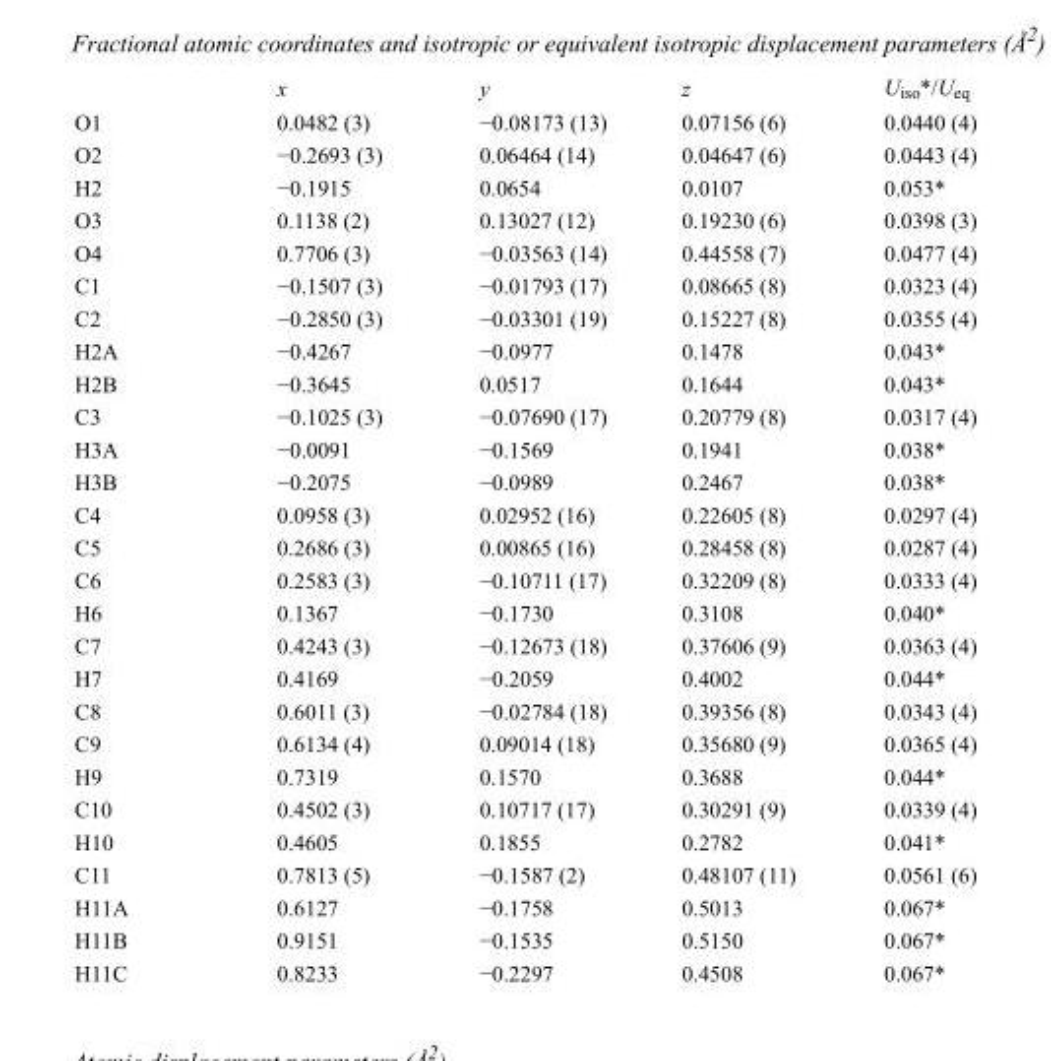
<table><thead><tr><td></td><td>x</td><td>y</td><td>z</td><td>U<sub>iso</sub>*/U<sub>eq</sub></td></tr></thead><tbody><tr><td>O1</td><td>0.0482 (3)</td><td>−0.08173 (13)</td><td>0.07156 (6)</td><td>0.0440 (4)</td></tr><tr><td>O2</td><td>−0.2693 (3)</td><td>0.06464 (14)</td><td>0.04647 (6)</td><td>0.0443 (4)</td></tr><tr><td>H2</td><td>−0.1915</td><td>0.0654</td><td>0.0107</td><td>0.053*</td></tr><tr><td>O3</td><td>0.1138 (2)</td><td>0.13027 (12)</td><td>0.19230 (6)</td><td>0.0398 (3)</td></tr><tr><td>O4</td><td>0.7706 (3)</td><td>−0.03563 (14)</td><td>0.44558 (7)</td><td>0.0477 (4)</td></tr><tr><td>C1</td><td>−0.1507 (3)</td><td>−0.01793 (17)</td><td>0.08665 (8)</td><td>0.0323 (4)</td></tr><tr><td>C2</td><td>−0.2850 (3)</td><td>−0.03301 (19)</td><td>0.15227 (8)</td><td>0.0355 (4)</td></tr><tr><td>H2A</td><td>−0.4267</td><td>−0.0977</td><td>0.1478</td><td>0.043*</td></tr><tr><td>H2B</td><td>−0.3645</td><td>0.0517</td><td>0.1644</td><td>0.043*</td></tr><tr><td>C3</td><td>−0.1025 (3)</td><td>−0.07690 (17)</td><td>0.20779 (8)</td><td>0.0317 (4)</td></tr><tr><td>H3A</td><td>−0.0091</td><td>−0.1569</td><td>0.1941</td><td>0.038*</td></tr><tr><td>H3B</td><td>−0.2075</td><td>−0.0989</td><td>0.2467</td><td>0.038*</td></tr><tr><td>C4</td><td>0.0958 (3)</td><td>0.02952 (16)</td><td>0.22605 (8)</td><td>0.0297 (4)</td></tr><tr><td>C5</td><td>0.2686 (3)</td><td>0.00865 (16)</td><td>0.28458 (8)</td><td>0.0287 (4)</td></tr><tr><td>C6</td><td>0.2583 (3)</td><td>−0.10711 (17)</td><td>0.32209 (8)</td><td>0.0333 (4)</td></tr><tr><td>H6</td><td>0.1367</td><td>−0.1730</td><td>0.3108</td><td>0.040*</td></tr><tr><td>C7</td><td>0.4243 (3)</td><td>−0.12673 (18)</td><td>0.37606 (9)</td><td>0.0363 (4)</td></tr><tr><td>H7</td><td>0.4169</td><td>−0.2059</td><td>0.4002</td><td>0.044*</td></tr><tr><td>C8</td><td>0.6011 (3)</td><td>−0.02784 (18)</td><td>0.39356 (8)</td><td>0.0343 (4)</td></tr><tr><td>C9</td><td>0.6134 (4)</td><td>0.09014 (18)</td><td>0.35680 (9)</td><td>0.0365 (4)</td></tr><tr><td>H9</td><td>0.7319</td><td>0.1570</td><td>0.3688</td><td>0.044*</td></tr><tr><td>C10</td><td>0.4502 (3)</td><td>0.10717 (17)</td><td>0.30291 (9)</td><td>0.0339 (4)</td></tr><tr><td>H10</td><td>0.4605</td><td>0.1855</td><td>0.2782</td><td>0.041*</td></tr><tr><td>C11</td><td>0.7813 (5)</td><td>−0.1587 (2)</td><td>0.48107 (11)</td><td>0.0561 (6)</td></tr><tr><td>H11A</td><td>0.6127</td><td>−0.1758</td><td>0.5013</td><td>0.067*</td></tr><tr><td>H11B</td><td>0.9151</td><td>−0.1535</td><td>0.5150</td><td>0.067*</td></tr><tr><td>H11C</td><td>0.8233</td><td>−0.2297</td><td>0.4508</td><td>0.067*</td></tr></tbody></table>